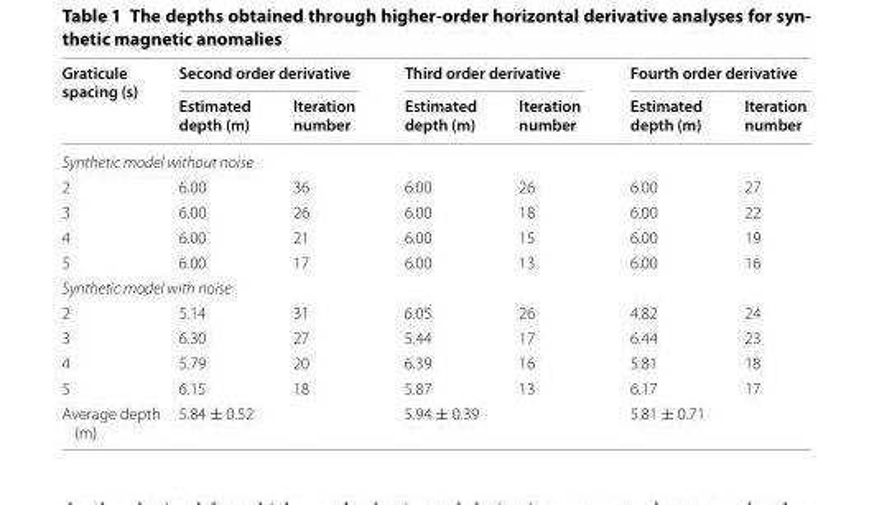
<table><thead><tr><td rowspan="2">Graticule spacing (s)</td><td colspan="2">Second order derivative</td><td colspan="2">Third order derivative</td><td colspan="2">Fourth order derivative</td></tr><tr><td>Estimated depth (m)</td><td>Iteration number</td><td>Estimated depth (m)</td><td>Iteration number</td><td>Estimated depth (m)</td><td>Iteration number</td></tr></thead><tbody><tr><td colspan="7">Synthetic model without noise</td></tr><tr><td>2</td><td>6.00</td><td>36</td><td>6.00</td><td>26</td><td>6.00</td><td>27</td></tr><tr><td>3</td><td>6.00</td><td>26</td><td>6.00</td><td>18</td><td>6.00</td><td>22</td></tr><tr><td>4</td><td>6.00</td><td>21</td><td>6.00</td><td>15</td><td>6.00</td><td>19</td></tr><tr><td>5</td><td>6.00</td><td>17</td><td>6.00</td><td>13</td><td>6.00</td><td>16</td></tr><tr><td colspan="7">Synthetic model with noise</td></tr><tr><td>2</td><td>5.14</td><td>31</td><td>6.05</td><td>26</td><td>4.82</td><td>24</td></tr><tr><td>3</td><td>6.30</td><td>27</td><td>5.44</td><td>17</td><td>6.44</td><td>23</td></tr><tr><td>4</td><td>5.79</td><td>20</td><td>6.39</td><td>16</td><td>5.81</td><td>18</td></tr><tr><td>5</td><td>6.15</td><td>18</td><td>5.87</td><td>13</td><td>6.17</td><td>17</td></tr><tr><td>Average depth (m)</td><td>5.84 ± 0.52</td><td></td><td>5.94 ± 0.39</td><td></td><td>5.81 ± 0.71</td><td></td></tr></tbody></table>